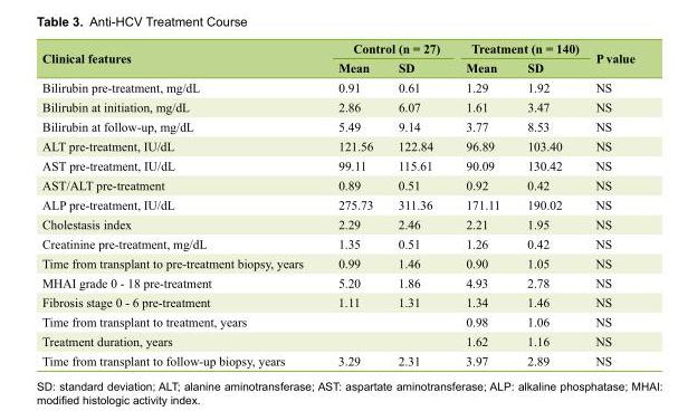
<table><thead><tr><td rowspan="2">Clinical features</td><td colspan="2">Control (n = 27)</td><td colspan="2">Treatment (n = 140)</td><td rowspan="2">P value</td></tr><tr><td>Mean</td><td>SD</td><td>Mean</td><td>SD</td></tr></thead><tbody><tr><td>Bilirubin pre-treatment, mg/dL</td><td>0.91</td><td>0.61</td><td>1.29</td><td>1.92</td><td>NS</td></tr><tr><td>Bilirubin at initiation, mg/dL</td><td>2.86</td><td>6.07</td><td>1.61</td><td>3.47</td><td>NS</td></tr><tr><td>Bilirubin at follow-up, mg/dL</td><td>5.49</td><td>9.14</td><td>3.77</td><td>8.53</td><td>NS</td></tr><tr><td>ALT pre-treatment, IU/dL</td><td>121.56</td><td>122.84</td><td>96.89</td><td>103.40</td><td>NS</td></tr><tr><td>AST pre-treatment, IU/dL</td><td>99.11</td><td>115.61</td><td>90.09</td><td>130.42</td><td>NS</td></tr><tr><td>AST/ALT pre-treatment</td><td>0.89</td><td>0.51</td><td>0.92</td><td>0.42</td><td>NS</td></tr><tr><td>ALP pre-treatment, IU/dL</td><td>275.73</td><td>311.36</td><td>171.11</td><td>190.02</td><td>NS</td></tr><tr><td>Cholestasis index</td><td>2.29</td><td>2.46</td><td>2.21</td><td>1.95</td><td>NS</td></tr><tr><td>Creatinine pre-treatment, mg/dL</td><td>1.35</td><td>0.51</td><td>1.26</td><td>0.42</td><td>NS</td></tr><tr><td>Time from transplant to pre-treatment biopsy, years</td><td>0.99</td><td>1.46</td><td>0.90</td><td>1.05</td><td>NS</td></tr><tr><td>MHAI grade 0 - 18 pre-treatment</td><td>5.20</td><td>1.86</td><td>4.93</td><td>2.78</td><td>NS</td></tr><tr><td>Fibrosis stage 0 - 6 pre-treatment</td><td>1.11</td><td>1.31</td><td>1.34</td><td>1.46</td><td>NS</td></tr><tr><td>Time from transplant to treatment, years</td><td></td><td></td><td>0.98</td><td>1.06</td><td>NS</td></tr><tr><td>Treatment duration, years</td><td></td><td></td><td>1.62</td><td>1.16</td><td>NS</td></tr><tr><td>Time from transplant to follow-up biopsy, years</td><td>3.29</td><td>2.31</td><td>3.97</td><td>2.89</td><td>NS</td></tr></tbody></table>